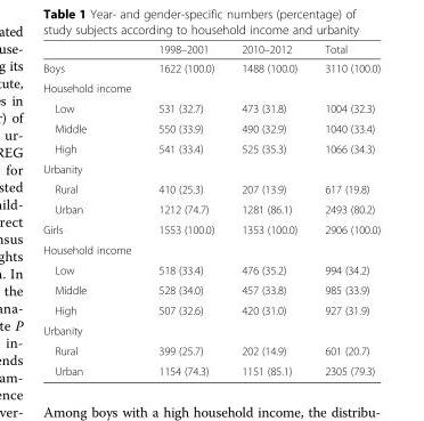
<table><thead><tr><td></td><td>1998–2001</td><td>2010–2012</td><td>Total</td></tr></thead><tbody><tr><td>Boys</td><td>1622 (100.0)</td><td>1488 (100.0)</td><td>3110 (100.0)</td></tr><tr><td colspan="4">Household income</td></tr><tr><td>Low</td><td>531 (32.7)</td><td>473 (31.8)</td><td>1004 (32.3)</td></tr><tr><td>Middle</td><td>550 (33.9)</td><td>490 (32.9)</td><td>1040 (33.4)</td></tr><tr><td>High</td><td>541 (33.4)</td><td>525 (35.3)</td><td>1066 (34.3)</td></tr><tr><td colspan="4">Urbanity</td></tr><tr><td>Rural</td><td>410 (25.3)</td><td>207 (13.9)</td><td>617 (19.8)</td></tr><tr><td>Urban</td><td>1212 (74.7)</td><td>1281 (86.1)</td><td>2493 (80.2)</td></tr><tr><td>Girls</td><td>1553 (100.0)</td><td>1353 (100.0)</td><td>2906 (100.0)</td></tr><tr><td colspan="4">Household income</td></tr><tr><td>Low</td><td>518 (33.4)</td><td>476 (35.2)</td><td>994 (34.2)</td></tr><tr><td>Middle</td><td>528 (34.0)</td><td>457 (33.8)</td><td>985 (33.9)</td></tr><tr><td>High</td><td>507 (32.6)</td><td>420 (31.0)</td><td>927 (31.9)</td></tr><tr><td colspan="4">Urbanity</td></tr><tr><td>Rural</td><td>399 (25.7)</td><td>202 (14.9)</td><td>601 (20.7)</td></tr><tr><td>Urban</td><td>1154 (74.3)</td><td>1151 (85.1)</td><td>2305 (79.3)</td></tr></tbody></table>